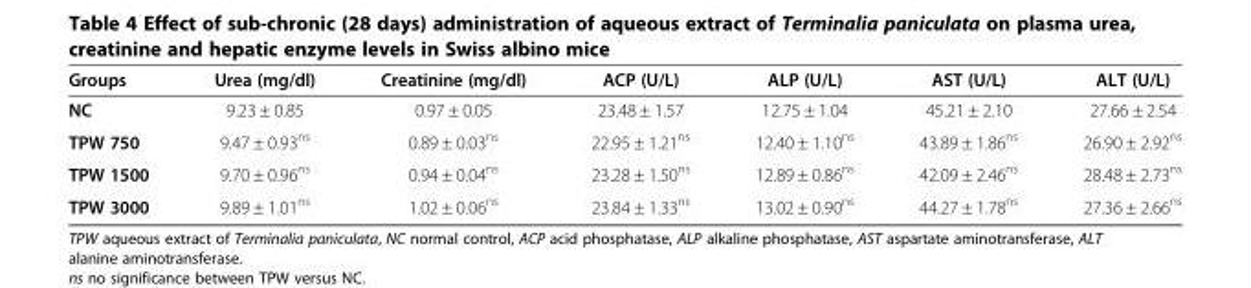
<table><thead><tr><td>Groups</td><td>Urea (mg/dl)</td><td>Creatinine (mg/dl)</td><td>ACP (U/L)</td><td>ALP (U/L)</td><td>AST (U/L)</td><td>ALT (U/L)</td></tr></thead><tbody><tr><td>NC</td><td>9.23 ± 0.85</td><td>0.97 ± 0.05</td><td>23.48 ± 1.57</td><td>12.75 ± 1.04</td><td>45.21 ± 2.10</td><td>27.66 ± 2.54</td></tr><tr><td>TPW 750</td><td>9.47 ± 0.93<sup>ns</sup></td><td>0.89 ± 0.03<sup>ns</sup></td><td>22.95 ± 1.21<sup>ns</sup></td><td>12.40 ± 1.10<sup>ns</sup></td><td>43.89 ± 1.86<sup>ns</sup></td><td>26.90 ± 2.92<sup>ns</sup></td></tr><tr><td>TPW 1500</td><td>9.70 ± 0.96<sup>ns</sup></td><td>0.94 ± 0.04<sup>ns</sup></td><td>23.28 ± 1.50<sup>ns</sup></td><td>12.89 ± 0.86<sup>ns</sup></td><td>42.09 ± 2.46<sup>ns</sup></td><td>28.48 ± 2.73<sup>ns</sup></td></tr><tr><td>TPW 3000</td><td>9.89 ± 1.01<sup>ns</sup></td><td>1.02 ± 0.06<sup>ns</sup></td><td>23.84 ± 1.33<sup>ns</sup></td><td>13.02 ± 0.90<sup>ns</sup></td><td>44.27 ± 1.78<sup>ns</sup></td><td>27.36 ± 2.66<sup>ns</sup></td></tr></tbody></table>